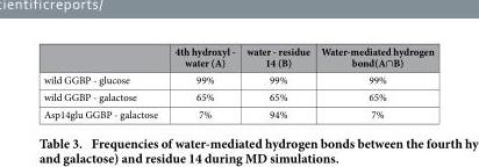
<table><thead><tr><td></td><td>4th hydroxyl - water (A)</td><td>water - residue 14 (B)</td><td>Water-mediated hydrogen bond(A∩B)</td></tr></thead><tbody><tr><td>wild GGBP - glucose</td><td>99%</td><td>99%</td><td>99%</td></tr><tr><td>wild GGBP - galactose</td><td>65%</td><td>65%</td><td>65%</td></tr><tr><td>Asp14glu GGBP - galactose</td><td>7%</td><td>94%</td><td>7%</td></tr></tbody></table>